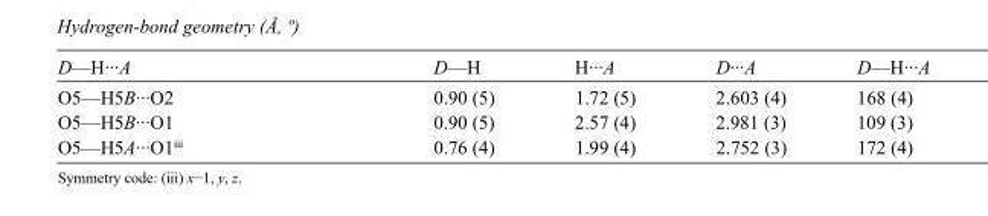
<table><tbody><tr><td>D—H···A</td><td>D—H</td><td>H···A</td><td>D···A</td><td>D—H···A</td></tr><tr><td>O5—H5B···O2</td><td>0.90 (5)</td><td>1.72 (5)</td><td>2.603 (4)</td><td>168 (4)</td></tr><tr><td>O5—H5B···O1</td><td>0.90 (5)</td><td>2.57 (4)</td><td>2.981 (3)</td><td>109 (3)</td></tr><tr><td>O5—H5A···O1<sup>iii</sup></td><td>0.76 (4)</td><td>1.99 (4)</td><td>2.752 (3)</td><td>172 (4)</td></tr></tbody></table>